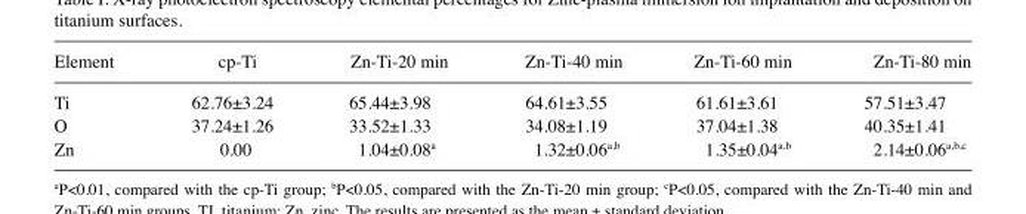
<table><thead><tr><td>Element</td><td>cp‑Ti</td><td>Zn‑Ti‑20 min</td><td>Zn‑Ti‑40 min</td><td>Zn‑Ti‑60 min</td><td>Zn‑Ti‑80 min</td></tr></thead><tbody><tr><td>Ti</td><td>62.76±3.24</td><td>65.44±3.98</td><td>64.61±3.55</td><td>61.61±3.61</td><td>57.51±3.47</td></tr><tr><td>O</td><td>37.24±1.26</td><td>33.52±1.33</td><td>34.08±1.19</td><td>37.04±1.38</td><td>40.35±1.41</td></tr><tr><td>Zn</td><td>0.00</td><td>1.04±0.08<sup>a</sup></td><td>1.32±0.06<sup>a</sup>,<sup>b</sup></td><td>1.35±0.04<sup>a</sup>,<sup>b</sup></td><td>2.14±0.06<sup>a</sup>,<sup>b</sup>,<sup>c</sup></td></tr></tbody></table>